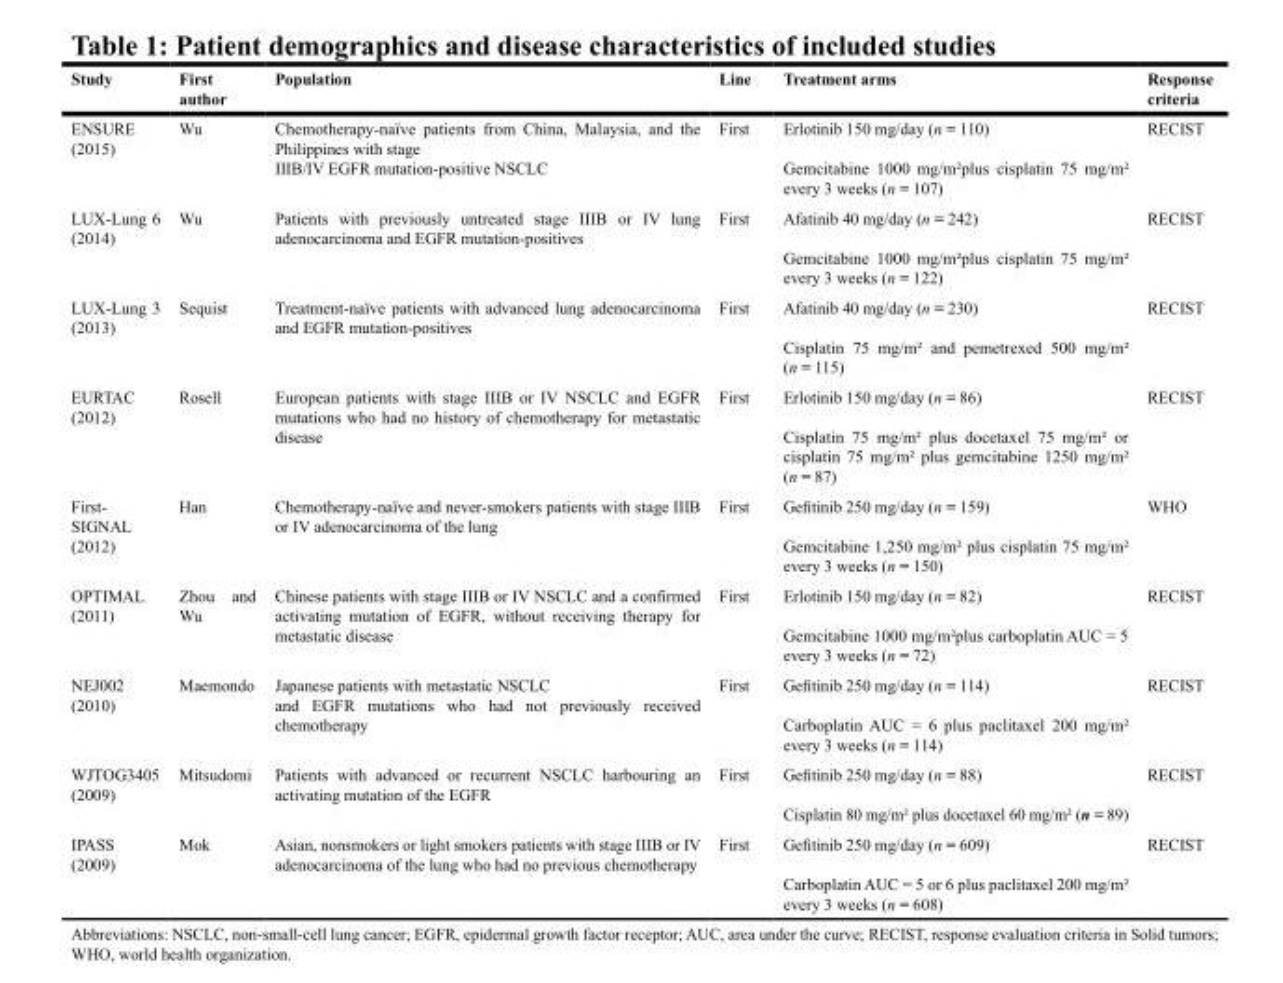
<table><thead><tr><td>Study</td><td>First author</td><td>Population</td><td>Line</td><td>Treatment arms</td><td>Response criteria</td></tr></thead><tbody><tr><td>ENSURE (2015)</td><td>Wu</td><td>Chemotherapy-naïve patients from China, Malaysia, and the Philippines with stage IIIB/IV EGFR mutation-positive NSCLC</td><td>First</td><td>Erlotinib 150 mg/day (n = 110) Gemcitabine 1000 mg/m²plus cisplatin 75 mg/m² every 3 weeks (n = 107)</td><td>RECIST</td></tr><tr><td>LUX-Lung 6 (2014)</td><td>Wu</td><td>Patients with previously untreated stage IIIB or IV lung adenocarcinoma and EGFR mutation-positives</td><td>First</td><td>Afatinib 40 mg/day (n = 242) Gemcitabine 1000 mg/m²plus cisplatin 75 mg/m² every 3 weeks (n = 122)</td><td>RECIST</td></tr><tr><td>LUX-Lung 3 (2013)</td><td>Sequist</td><td>Treatment-naïve patients with advanced lung adenocarcinoma and EGFR mutation-positives</td><td>First</td><td>Afatinib 40 mg/day (n = 230) Cisplatin 75 mg/m² and pemetrexed 500 mg/m² (n = 115)</td><td>RECIST</td></tr><tr><td>EURTAC (2012)</td><td>Rosell</td><td>European patients with stage IIIB or IV NSCLC and EGFR mutations who had no history of chemotherapy for metastatic disease</td><td>First</td><td>Erlotinib 150 mg/day (n = 86) Cisplatin 75 mg/m² plus docetaxel 75 mg/m² or cisplatin 75 mg/m² plus gemcitabine 1250 mg/m² (n = 87)</td><td>RECIST</td></tr><tr><td>First- SIGNAL (2012)</td><td>Han</td><td>Chemotherapy-naïve and never-smokers patients with stage IIIB or IV adenocarcinoma of the lung</td><td>First</td><td>Gefitinib 250 mg/day (n = 159) Gemcitabine 1,250 mg/m² plus cisplatin 75 mg/m² every 3 weeks (n = 150)</td><td>WHO</td></tr><tr><td>OPTIMAL (2011)</td><td>Zhou and Wu</td><td>Chinese patients with stage IIIB or IV NSCLC and a confirmed activating mutation of EGFR, without receiving therapy for metastatic disease</td><td>First</td><td>Erlotinib 150 mg/day (n = 82) Gemcitabine 1000 mg/m²plus carboplatin AUC = 5 every 3 weeks (n = 72)</td><td>RECIST</td></tr><tr><td>NEJ002 (2010)</td><td>Maemondo</td><td>Japanese patients with metastatic NSCLC and EGFR mutations who had not previously received chemotherapy</td><td>First</td><td>Gefitinib 250 mg/day (n = 114) Carboplatin AUC = 6 plus paclitaxel 200 mg/m² every 3 weeks (n = 114)</td><td>RECIST</td></tr><tr><td>WJTOG3405 (2009)</td><td>Mitsudomi</td><td>Patients with advanced or recurrent NSCLC harbouring an activating mutation of the EGFR</td><td>First</td><td>Gefitinib 250 mg/day (n = 88) Cisplatin 80 mg/m² plus docetaxel 60 mg/m² (n = 89)</td><td>RECIST</td></tr><tr><td>IPASS (2009)</td><td>Mok</td><td>Asian, nonsmokers or light smokers patients with stage IIIB or IV adenocarcinoma of the lung who had no previous chemotherapy</td><td>First</td><td>Gefitinib 250 mg/day (n = 609) Carboplatin AUC = 5 or 6 plus paclitaxel 200 mg/m² every 3 weeks (n = 608)</td><td>RECIST</td></tr></tbody></table>